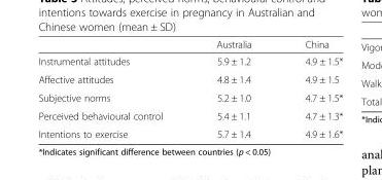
<table><thead><tr><td></td><td>Australia</td><td>China</td></tr></thead><tbody><tr><td>Instrumental attitudes</td><td>5.9 ± 1.2</td><td>4.9 ± 1.5*</td></tr><tr><td>Affective attitudes</td><td>4.8 ± 1.4</td><td>4.9 ± 1.5</td></tr><tr><td>Subjective norms</td><td>5.2 ± 1.0</td><td>4.7 ± 1.5*</td></tr><tr><td>Perceived behavioural control</td><td>5.4 ± 1.1</td><td>4.7 ± 1.3*</td></tr><tr><td>Intentions to exercise</td><td>5.7 ± 1.4</td><td>4.9 ± 1.6*</td></tr></tbody></table>